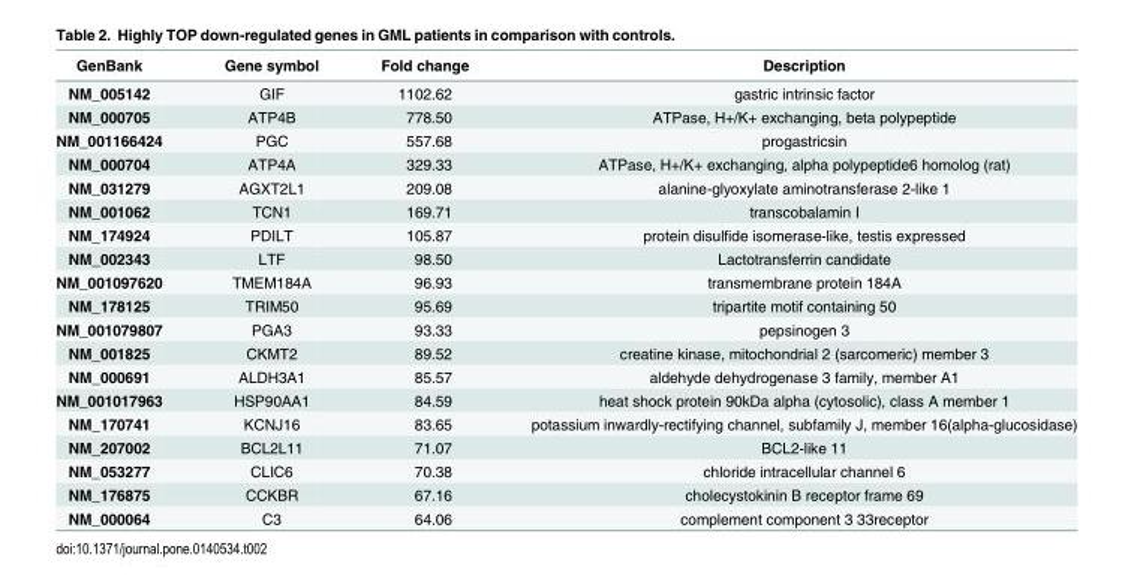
<table><thead><tr><td>GenBank</td><td>Gene symbol</td><td>Fold change</td><td>Description</td></tr></thead><tbody><tr><td>NM_005142</td><td>GIF</td><td>1102.62</td><td>gastric intrinsic factor</td></tr><tr><td>NM_000705</td><td>ATP4B</td><td>778.50</td><td>ATPase, H+/K+ exchanging, beta polypeptide</td></tr><tr><td>NM_001166424</td><td>PGC</td><td>557.68</td><td>progastricsin</td></tr><tr><td>NM_000704</td><td>ATP4A</td><td>329.33</td><td>ATPase, H+/K+ exchanging, alpha polypeptide6 homolog (rat)</td></tr><tr><td>NM_031279</td><td>AGXT2L1</td><td>209.08</td><td>alanine-glyoxylate aminotransferase 2-like 1</td></tr><tr><td>NM_001062</td><td>TCN1</td><td>169.71</td><td>transcobalamin I</td></tr><tr><td>NM_174924</td><td>PDILT</td><td>105.87</td><td>protein disulfide isomerase-like, testis expressed</td></tr><tr><td>NM_002343</td><td>LTF</td><td>98.50</td><td>Lactotransferrin candidate</td></tr><tr><td>NM_001097620</td><td>TMEM184A</td><td>96.93</td><td>transmembrane protein 184A</td></tr><tr><td>NM_178125</td><td>TRIM50</td><td>95.69</td><td>tripartite motif containing 50</td></tr><tr><td>NM_001079807</td><td>PGA3</td><td>93.33</td><td>pepsinogen 3</td></tr><tr><td>NM_001825</td><td>CKMT2</td><td>89.52</td><td>creatine kinase, mitochondrial 2 (sarcomeric) member 3</td></tr><tr><td>NM_000691</td><td>ALDH3A1</td><td>85.57</td><td>aldehyde dehydrogenase 3 family, member A1</td></tr><tr><td>NM_001017963</td><td>HSP90AA1</td><td>84.59</td><td>heat shock protein 90kDa alpha (cytosolic), class A member 1</td></tr><tr><td>NM_170741</td><td>KCNJ16</td><td>83.65</td><td>potassium inwardly-rectifying channel, subfamily J, member 16(alpha-glucosidase)</td></tr><tr><td>NM_207002</td><td>BCL2L11</td><td>71.07</td><td>BCL2-like 11</td></tr><tr><td>NM_053277</td><td>CLIC6</td><td>70.38</td><td>chloride intracellular channel 6</td></tr><tr><td>NM_176875</td><td>CCKBR</td><td>67.16</td><td>cholecystokinin B receptor frame 69</td></tr><tr><td>NM_000064</td><td>C3</td><td>64.06</td><td>complement component 3 33receptor</td></tr></tbody></table>